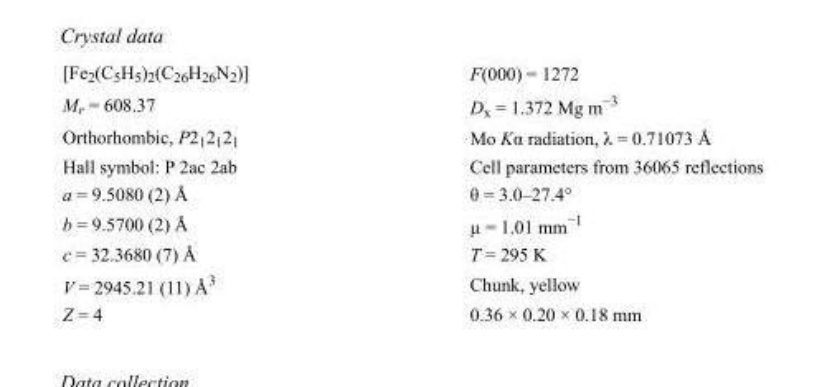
<table><tbody><tr><td>[Fe<sub>2</sub>(C<sub>5</sub>H<sub>5</sub>)<sub>2</sub>(C<sub>26</sub>H<sub>26</sub>N<sub>2</sub>)]</td><td>F(000) = 1272</td></tr><tr><td>M<sub>r</sub> = 608.37</td><td>D<sub>x</sub> = 1.372 Mg m<sup>−3</sup></td></tr><tr><td>Orthorhombic, P2<sub>1</sub>2<sub>1</sub>2<sub>1</sub></td><td>Mo Kα radiation, λ = 0.71073 Å</td></tr><tr><td>Hall symbol: P 2ac 2ab</td><td>Cell parameters from 36065 reflections</td></tr><tr><td>a = 9.5080 (2) Å</td><td>θ = 3.0–27.4°</td></tr><tr><td>b = 9.5700 (2) Å</td><td>µ = 1.01 mm<sup>−1</sup></td></tr><tr><td>c = 32.3680 (7) Å</td><td>T = 295 K</td></tr><tr><td>V = 2945.21 (11) Å<sup>3</sup></td><td>Chunk, yellow</td></tr><tr><td>Z = 4</td><td>0.36 × 0.20 × 0.18 mm</td></tr></tbody></table>